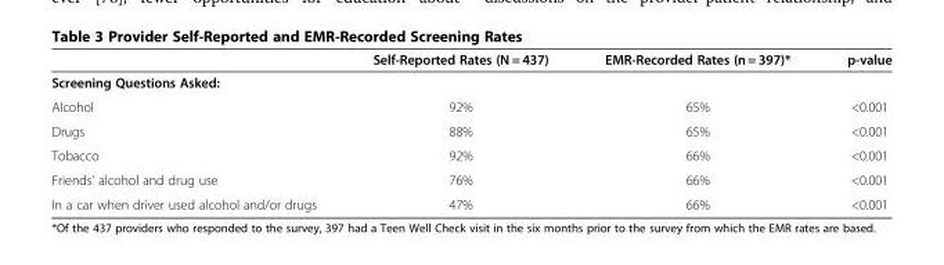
<table><thead><tr><td></td><td>Self-Reported Rates (N = 437)</td><td>EMR-Recorded Rates (n = 397)*</td><td>p-value</td></tr></thead><tbody><tr><td colspan="4">Screening Questions Asked:</td></tr><tr><td>Alcohol</td><td>92%</td><td>65%</td><td>&lt;0.001</td></tr><tr><td>Drugs</td><td>88%</td><td>65%</td><td>&lt;0.001</td></tr><tr><td>Tobacco</td><td>92%</td><td>66%</td><td>&lt;0.001</td></tr><tr><td>Friends&#x27; alcohol and drug use</td><td>76%</td><td>66%</td><td>&lt;0.001</td></tr><tr><td>In a car when driver used alcohol and/or drugs</td><td>47%</td><td>66%</td><td>&lt;0.001</td></tr></tbody></table>